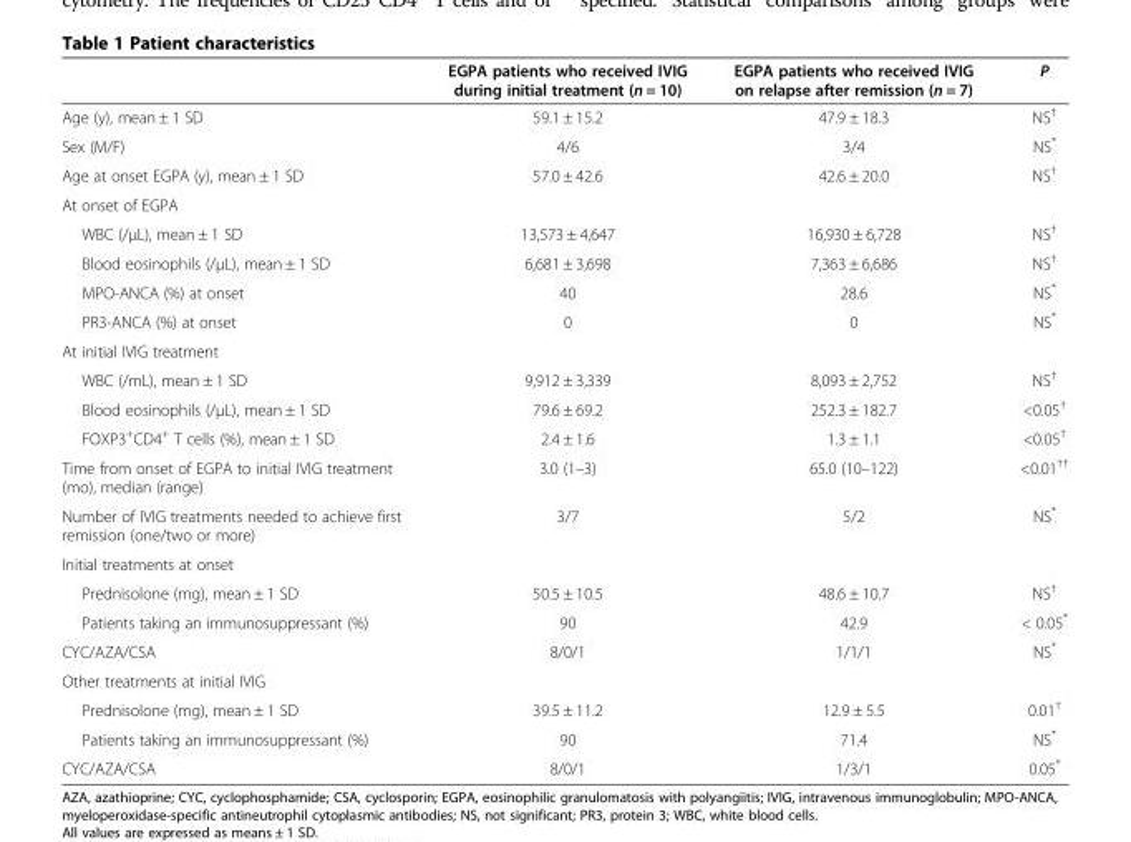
<table><thead><tr><td></td><td>EGPA patients who received IVIG during initial treatment (n = 10)</td><td>EGPA patients who received IVIG on relapse after remission (n = 7)</td><td>P</td></tr></thead><tbody><tr><td>Age (y), mean ± 1 SD</td><td>59.1 ± 15.2</td><td>47.9 ± 18.3</td><td>NS<sup>†</sup></td></tr><tr><td>Sex (M/F)</td><td>4/6</td><td>3/4</td><td>NS*</td></tr><tr><td>Age at onset EGPA (y), mean ± 1 SD</td><td>57.0 ± 42.6</td><td>42.6 ± 20.0</td><td>NS<sup>†</sup></td></tr><tr><td colspan="4">At onset of EGPA</td></tr><tr><td>WBC (/μL), mean ± 1 SD</td><td>13,573 ± 4,647</td><td>16,930 ± 6,728</td><td>NS<sup>†</sup></td></tr><tr><td>Blood eosinophils (/μL), mean ± 1 SD</td><td>6,681 ± 3,698</td><td>7,363 ± 6,686</td><td>NS<sup>†</sup></td></tr><tr><td>MPO-ANCA (%) at onset</td><td>40</td><td>28.6</td><td>NS*</td></tr><tr><td>PR3-ANCA (%) at onset</td><td>0</td><td>0</td><td>NS*</td></tr><tr><td colspan="4">At initial IVIG treatment</td></tr><tr><td>WBC (/mL), mean ± 1 SD</td><td>9,912 ± 3,339</td><td>8,093 ± 2,752</td><td>NS<sup>†</sup></td></tr><tr><td>Blood eosinophils (/μL), mean ± 1 SD</td><td>79.6 ± 69.2</td><td>252.3 ± 182.7</td><td>&lt;0.05<sup>†</sup></td></tr><tr><td>FOXP3<sup>+</sup>CD4<sup>+</sup> T cells (%), mean ± 1 SD</td><td>2.4 ± 1.6</td><td>1.3 ± 1.1</td><td>&lt;0.05<sup>†</sup></td></tr><tr><td>Time from onset of EGPA to initial IVIG treatment (mo), median (range)</td><td>3.0 (1–3)</td><td>65.0 (10–122)</td><td>&lt;0.01<sup>††</sup></td></tr><tr><td>Number of IVIG treatments needed to achieve first remission (one/two or more)</td><td>3/7</td><td>5/2</td><td>NS*</td></tr><tr><td colspan="4">Initial treatments at onset</td></tr><tr><td>Prednisolone (mg), mean ± 1 SD</td><td>50.5 ± 10.5</td><td>48.6 ± 10.7</td><td>NS<sup>†</sup></td></tr><tr><td>Patients taking an immunosuppressant (%)</td><td>90</td><td>42.9</td><td>&lt; 0.05*</td></tr><tr><td>CYC/AZA/CSA</td><td>8/0/1</td><td>1/1/1</td><td>NS*</td></tr><tr><td colspan="4">Other treatments at initial IVIG</td></tr><tr><td>Prednisolone (mg), mean ± 1 SD</td><td>39.5 ± 11.2</td><td>12.9 ± 5.5</td><td>0.01<sup>†</sup></td></tr><tr><td>Patients taking an immunosuppressant (%)</td><td>90</td><td>71.4</td><td>NS*</td></tr><tr><td>CYC/AZA/CSA</td><td>8/0/1</td><td>1/3/1</td><td>0.05*</td></tr></tbody></table>